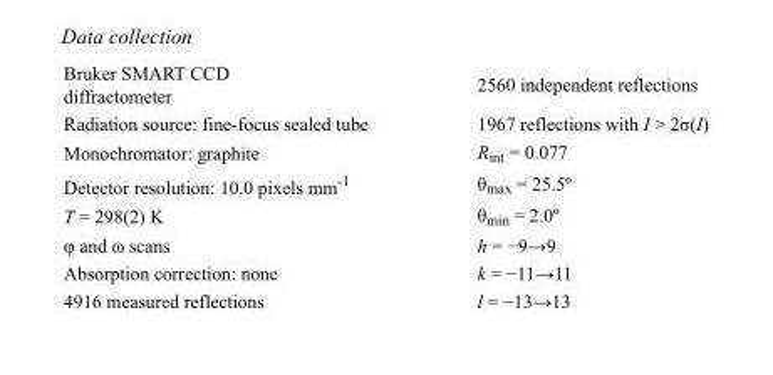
<table><tbody><tr><td>Bruker SMART CCD diffractometer</td><td>2560 independent reflections</td></tr><tr><td>Radiation source: fine-focus sealed tube</td><td>1967 reflections with I &gt; 2σ(I)</td></tr><tr><td>Monochromator: graphite</td><td>R<sub>int</sub> = 0.077</td></tr><tr><td>Detector resolution: 10.0 pixels mm<sup>-1</sup></td><td>θ<sub>max</sub> = 25.5º</td></tr><tr><td>T = 298(2) K</td><td>θ<sub>min</sub> = 2.0º</td></tr><tr><td>φ and ω scans</td><td>h = −9→9</td></tr><tr><td>Absorption correction: none</td><td>k = −11→11</td></tr><tr><td>4916 measured reflections</td><td>l = −13→13</td></tr></tbody></table>